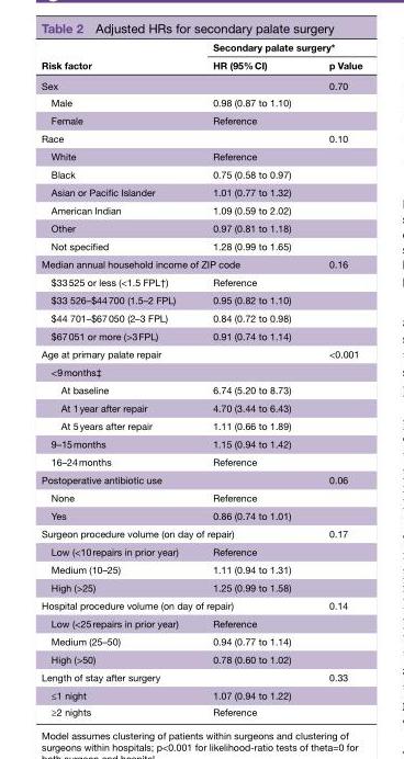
<table><thead><tr><td rowspan="2">Risk factor</td><td colspan="2">Secondary palate surgery*</td></tr><tr><td>HR (95% CI)</td><td>p Value</td></tr></thead><tbody><tr><td>Sex</td><td></td><td>0.70</td></tr><tr><td>Male</td><td>0.98 (0.87 to 1.10)</td><td></td></tr><tr><td>Female</td><td>Reference</td><td></td></tr><tr><td>Race</td><td></td><td>0.10</td></tr><tr><td>White</td><td>Reference</td><td></td></tr><tr><td>Black</td><td>0.75 (0.58 to 0.97)</td><td></td></tr><tr><td>Asian or Pacific Islander</td><td>1.01 (0.77 to 1.32)</td><td></td></tr><tr><td>American Indian</td><td>1.09 (0.59 to 2.02)</td><td></td></tr><tr><td>Other</td><td>0.97 (0.81 to 1.18)</td><td></td></tr><tr><td>Not specified</td><td>1.28 (0.99 to 1.65)</td><td></td></tr><tr><td colspan="2">Median annual household income of ZIP code</td><td>0.16</td></tr><tr><td>$33 525 or less (&lt;1.5 FPL†)</td><td>Reference</td><td></td></tr><tr><td>$33 526–$44 700 (1.5–2 FPL)</td><td>0.95 (0.82 to 1.10)</td><td></td></tr><tr><td>$44 701–$67 050 (2–3 FPL)</td><td>0.84 (0.72 to 0.98)</td><td></td></tr><tr><td>$67 051 or more (&gt;3 FPL)</td><td>0.91 (0.74 to 1.14)</td><td></td></tr><tr><td>Age at primary palate repair</td><td></td><td>&lt;0.001</td></tr><tr><td colspan="3">&lt;9 months‡</td></tr><tr><td>At baseline</td><td>6.74 (5.20 to 8.73)</td><td></td></tr><tr><td>At 1 year after repair</td><td>4.70 (3.44 to 6.43)</td><td></td></tr><tr><td>At 5 years after repair</td><td>1.11 (0.66 to 1.89)</td><td></td></tr><tr><td>9–15 months</td><td>1.15 (0.94 to 1.42)</td><td></td></tr><tr><td>16–24 months</td><td>Reference</td><td></td></tr><tr><td>Postoperative antibiotic use</td><td></td><td>0.06</td></tr><tr><td>None</td><td>Reference</td><td></td></tr><tr><td>Yes</td><td>0.86 (0.74 to 1.01)</td><td></td></tr><tr><td colspan="2">Surgeon procedure volume (on day of repair)</td><td>0.17</td></tr><tr><td>Low (&lt;10 repairs in prior year)</td><td>Reference</td><td></td></tr><tr><td>Medium (10–25)</td><td>1.11 (0.94 to 1.31)</td><td></td></tr><tr><td>High (&gt;25)</td><td>1.25 (0.99 to 1.58)</td><td></td></tr><tr><td colspan="2">Hospital procedure volume (on day of repair)</td><td>0.14</td></tr><tr><td>Low (&lt;25 repairs in prior year)</td><td>Reference</td><td></td></tr><tr><td>Medium (25–50)</td><td>0.94 (0.77 to 1.14)</td><td></td></tr><tr><td>High (&gt;50)</td><td>0.78 (0.60 to 1.02)</td><td></td></tr><tr><td>Length of stay after surgery</td><td></td><td>0.33</td></tr><tr><td>≤1 night</td><td>1.07 (0.94 to 1.22)</td><td></td></tr><tr><td>≥2 nights</td><td>Reference</td><td></td></tr></tbody></table>